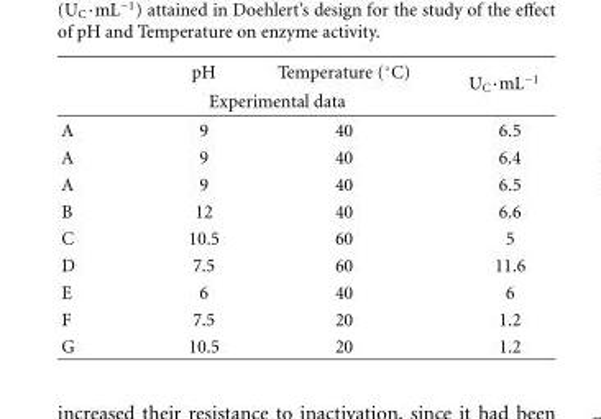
<table><thead><tr><td rowspan="2"></td><td>pH</td><td>Temperature (◦C)</td><td rowspan="2">U<sub>C</sub>·mL<sup>−1</sup></td></tr><tr><td colspan="2">Experimental data</td></tr></thead><tbody><tr><td>A</td><td>9</td><td>40</td><td>6.5</td></tr><tr><td>A</td><td>9</td><td>40</td><td>6.4</td></tr><tr><td>A</td><td>9</td><td>40</td><td>6.5</td></tr><tr><td>B</td><td>12</td><td>40</td><td>6.6</td></tr><tr><td>C</td><td>10.5</td><td>60</td><td>5</td></tr><tr><td>D</td><td>7.5</td><td>60</td><td>11.6</td></tr><tr><td>E</td><td>6</td><td>40</td><td>6</td></tr><tr><td>F</td><td>7.5</td><td>20</td><td>1.2</td></tr><tr><td>G</td><td>10.5</td><td>20</td><td>1.2</td></tr></tbody></table>